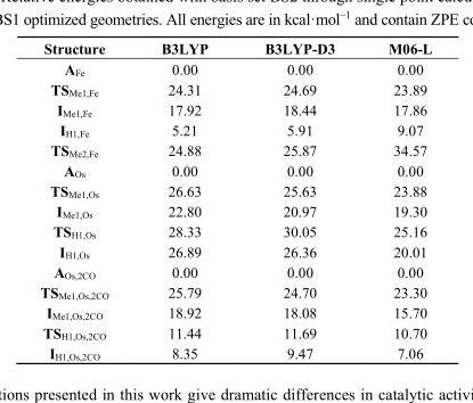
<table><thead><tr><td>Structure</td><td>B3LYP</td><td>B3LYP-D3</td><td>M06-L</td></tr></thead><tbody><tr><td>A<sub>Fe</sub></td><td>0.00</td><td>0.00</td><td>0.00</td></tr><tr><td>TS<sub>Me1,Fe</sub></td><td>24.31</td><td>24.69</td><td>23.89</td></tr><tr><td>I<sub>Me1,Fe</sub></td><td>17.92</td><td>18.44</td><td>17.86</td></tr><tr><td>I<sub>H1,Fe</sub></td><td>5.21</td><td>5.91</td><td>9.07</td></tr><tr><td>TS<sub>Me2,Fe</sub></td><td>24.88</td><td>25.87</td><td>34.57</td></tr><tr><td>A<sub>Os</sub></td><td>0.00</td><td>0.00</td><td>0.00</td></tr><tr><td>TS<sub>Me1,Os</sub></td><td>26.63</td><td>25.63</td><td>23.88</td></tr><tr><td>I<sub>Me1,Os</sub></td><td>22.80</td><td>20.97</td><td>19.30</td></tr><tr><td>TS<sub>H1,Os</sub></td><td>28.33</td><td>30.05</td><td>25.16</td></tr><tr><td>I<sub>H1,Os</sub></td><td>26.89</td><td>26.36</td><td>20.01</td></tr><tr><td>A<sub>Os,2CO</sub></td><td>0.00</td><td>0.00</td><td>0.00</td></tr><tr><td>TS<sub>Me1,Os,2CO</sub></td><td>25.79</td><td>24.70</td><td>23.30</td></tr><tr><td>I<sub>Me1,Os,2CO</sub></td><td>18.92</td><td>18.08</td><td>15.70</td></tr><tr><td>TS<sub>H1,Os,2CO</sub></td><td>11.44</td><td>11.69</td><td>10.70</td></tr><tr><td>I<sub>H1,Os,2CO</sub></td><td>8.35</td><td>9.47</td><td>7.06</td></tr></tbody></table>